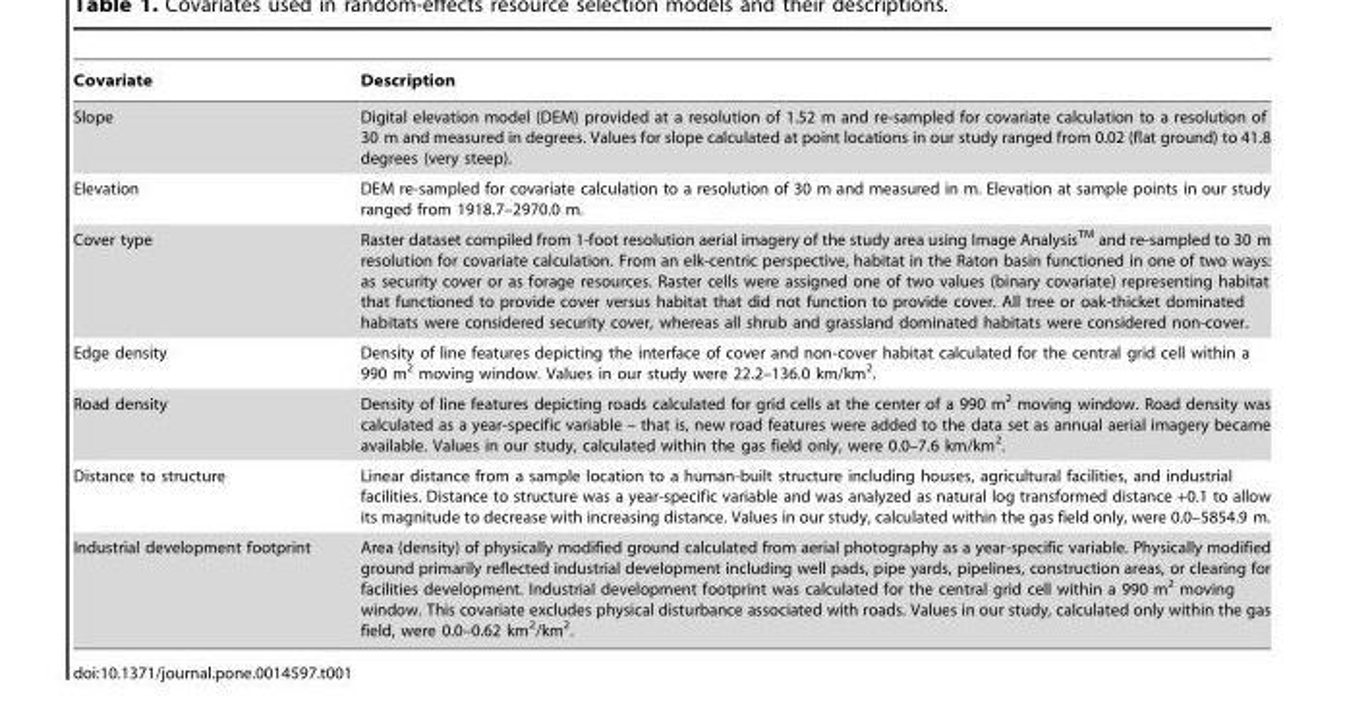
<table><thead><tr><td>Covariate</td><td>Description</td></tr></thead><tbody><tr><td>Slope</td><td>Digital elevation model (DEM) provided at a resolution of 1.52 m and re-sampled for covariate calculation to a resolution of 30 m and measured in degrees. Values for slope calculated at point locations in our study ranged from 0.02 (flat ground) to 41.8 degrees (very steep).</td></tr><tr><td>Elevation</td><td>DEM re-sampled for covariate calculation to a resolution of 30 m and measured in m. Elevation at sample points in our study ranged from 1918.7–2970.0 m.</td></tr><tr><td>Cover type</td><td>Raster dataset compiled from 1-foot resolution aerial imagery of the study area using Image AnalysisTM and re-sampled to 30 m resolution for covariate calculation. From an elk-centric perspective, habitat in the Raton basin functioned in one of two ways: as security cover or as forage resources. Raster cells were assigned one of two values (binary covariate) representing habitat that functioned to provide cover versus habitat that did not function to provide cover. All tree or oak-thicket dominated habitats were considered security cover, whereas all shrub and grassland dominated habitats were considered non-cover.</td></tr><tr><td>Edge density</td><td>Density of line features depicting the interface of cover and non-cover habitat calculated for the central grid cell within a 990 m<sup>2</sup> moving window. Values in our study were 22.2–136.0 km/km<sup>2</sup>.</td></tr><tr><td>Road density</td><td>Density of line features depicting roads calculated for grid cells at the center of a 990 m<sup>2</sup> moving window. Road density was calculated as a year-specific variable – that is, new road features were added to the data set as annual aerial imagery became available. Values in our study, calculated within the gas field only, were 0.0–7.6 km/km<sup>2</sup>.</td></tr><tr><td>Distance to structure</td><td>Linear distance from a sample location to a human-built structure including houses, agricultural facilities, and industrial facilities. Distance to structure was a year-specific variable and was analyzed as natural log transformed distance +0.1 to allow its magnitude to decrease with increasing distance. Values in our study, calculated within the gas field only, were 0.0–5854.9 m.</td></tr><tr><td>Industrial development footprint</td><td>Area (density) of physically modified ground calculated from aerial photography as a year-specific variable. Physically modified ground primarily reflected industrial development including well pads, pipe yards, pipelines, construction areas, or clearing for facilities development. Industrial development footprint was calculated for the central grid cell within a 990 m<sup>2</sup> moving window. This covariate excludes physical disturbance associated with roads. Values in our study, calculated only within the gas field, were 0.0–0.62 km<sup>2</sup>/km<sup>2</sup>.</td></tr></tbody></table>